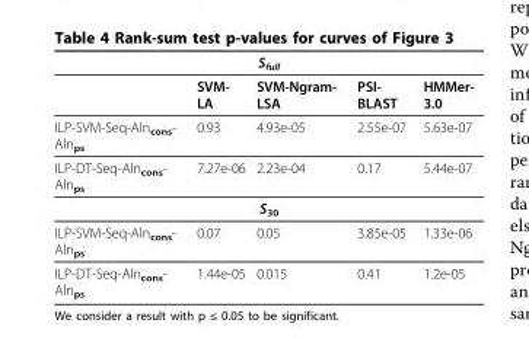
<table><thead><tr><td colspan="5">S<sub>full</sub></td></tr><tr><td></td><td>SVM- LA</td><td>SVM-Ngram- LSA</td><td>PSI- BLAST</td><td>HMMer- 3.0</td></tr></thead><tbody><tr><td>ILP-SVM-Seq-Aln<sub>cons</sub>- Aln<sub>ps</sub></td><td>0.93</td><td>4.93e-05</td><td>2.55e-07</td><td>5.63e-07</td></tr><tr><td>ILP-DT-Seq-Aln<sub>cons</sub>- Aln<sub>ps</sub></td><td>7.27e-06</td><td>2.23e-04</td><td>0.17</td><td>5.44e-07</td></tr><tr><td colspan="5">S<sub>30</sub></td></tr><tr><td>ILP-SVM-Seq-Aln<sub>cons</sub>- Aln<sub>ps</sub></td><td>0.07</td><td>0.05</td><td>3.85e-05</td><td>1.33e-06</td></tr><tr><td>ILP-DT-Seq-Aln<sub>cons</sub>- Aln<sub>ps</sub></td><td>1.44e-05</td><td>0.015</td><td>0.41</td><td>1.2e-05</td></tr></tbody></table>